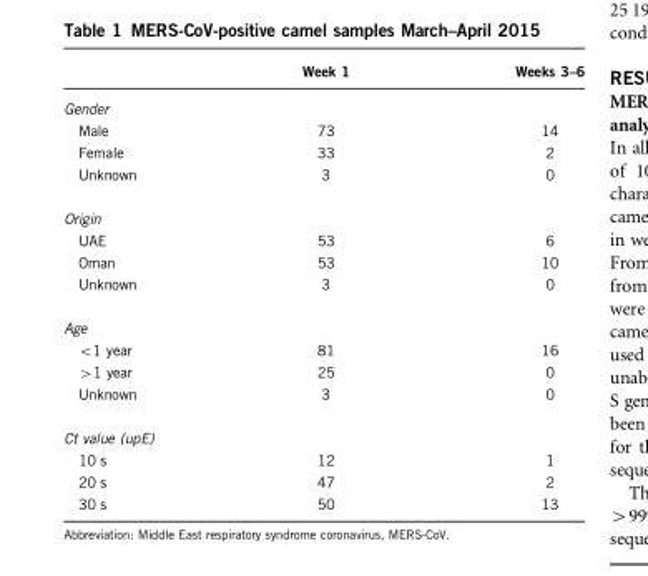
<table><thead><tr><td></td><td>Week 1</td><td>Weeks 3–6</td></tr></thead><tbody><tr><td colspan="3">Gender</td></tr><tr><td>Male</td><td>73</td><td>14</td></tr><tr><td>Female</td><td>33</td><td>2</td></tr><tr><td>Unknown</td><td>3</td><td>0</td></tr><tr><td colspan="3">Origin</td></tr><tr><td>UAE</td><td>53</td><td>6</td></tr><tr><td>Oman</td><td>53</td><td>10</td></tr><tr><td>Unknown</td><td>3</td><td>0</td></tr><tr><td colspan="3">Age</td></tr><tr><td>&lt;1 year</td><td>81</td><td>16</td></tr><tr><td>&gt;1 year</td><td>25</td><td>0</td></tr><tr><td>Unknown</td><td>3</td><td>0</td></tr><tr><td colspan="3">Ct value (upE)</td></tr><tr><td>10 s</td><td>12</td><td>1</td></tr><tr><td>20 s</td><td>47</td><td>2</td></tr><tr><td>30 s</td><td>50</td><td>13</td></tr></tbody></table>